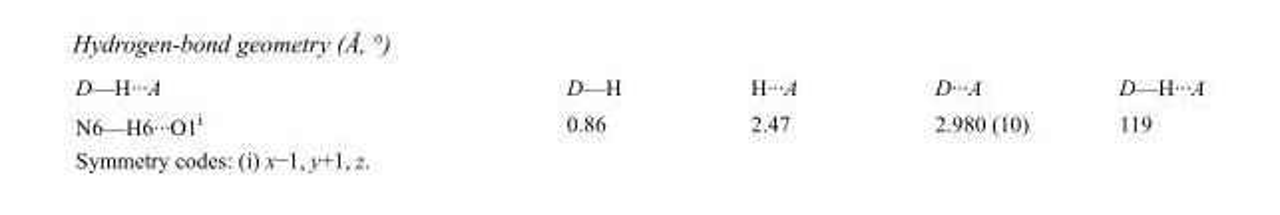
<table><tbody><tr><td>D—H···A</td><td>D—H</td><td>H···A</td><td>D···A</td><td>D—H···A</td></tr><tr><td>N6—H6···O1<sup>i</sup></td><td>0.86</td><td>2.47</td><td>2.980 (10)</td><td>119</td></tr></tbody></table>